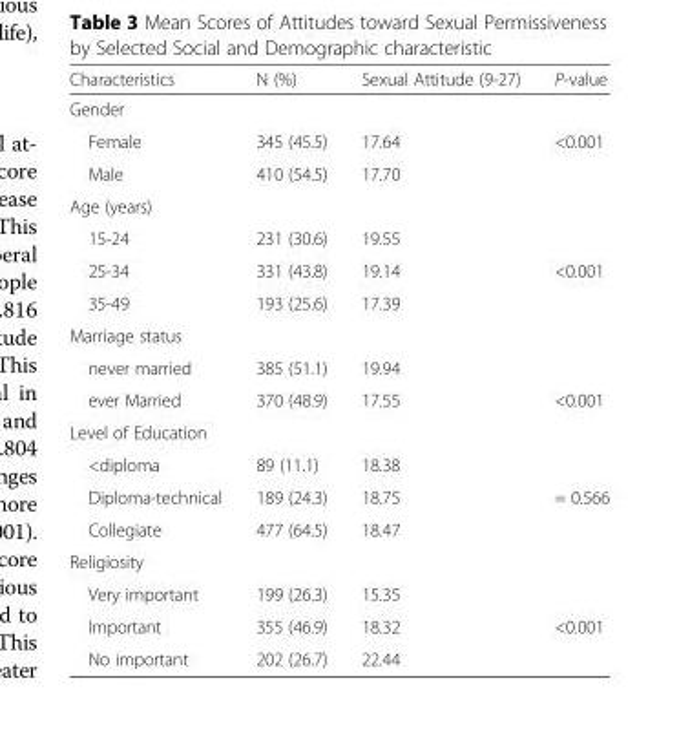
<table><thead><tr><td>Characteristics</td><td>N (%)</td><td>Sexual Attitude (9-27)</td><td>P-value</td></tr></thead><tbody><tr><td colspan="4">Gender</td></tr><tr><td>Female</td><td>345 (45.5)</td><td>17.64</td><td>&lt;0.001</td></tr><tr><td>Male</td><td>410 (54.5)</td><td>17.70</td><td></td></tr><tr><td colspan="4">Age (years)</td></tr><tr><td>15-24</td><td>231 (30.6)</td><td>19.55</td><td></td></tr><tr><td>25-34</td><td>331 (43.8)</td><td>19.14</td><td>&lt;0.001</td></tr><tr><td>35-49</td><td>193 (25.6)</td><td>17.39</td><td></td></tr><tr><td colspan="4">Marriage status</td></tr><tr><td>never married</td><td>385 (51.1)</td><td>19.94</td><td></td></tr><tr><td>ever Married</td><td>370 (48.9)</td><td>17.55</td><td>&lt;0.001</td></tr><tr><td colspan="4">Level of Education</td></tr><tr><td>&lt;diploma</td><td>89 (11.1)</td><td>18.38</td><td></td></tr><tr><td>Diploma-technical</td><td>189 (24.3)</td><td>18.75</td><td>= 0.566</td></tr><tr><td>Collegiate</td><td>477 (64.5)</td><td>18.47</td><td></td></tr><tr><td colspan="4">Religiosity</td></tr><tr><td>Very important</td><td>199 (26.3)</td><td>15.35</td><td></td></tr><tr><td>Important</td><td>355 (46.9)</td><td>18.32</td><td>&lt;0.001</td></tr><tr><td>No important</td><td>202 (26.7)</td><td>22.44</td><td></td></tr></tbody></table>